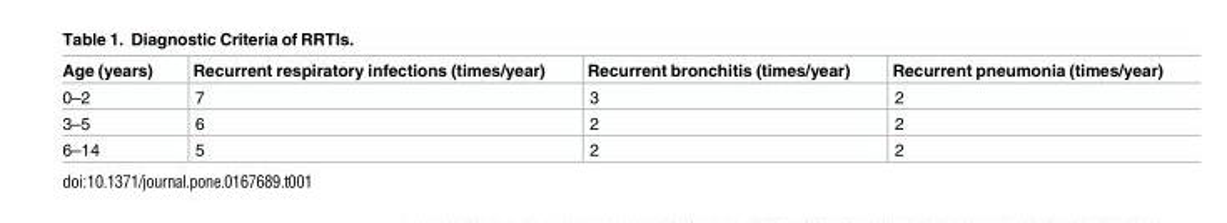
<table><thead><tr><td>Age (years)</td><td>Recurrent respiratory infections (times/year)</td><td>Recurrent bronchitis (times/year)</td><td>Recurrent pneumonia (times/year)</td></tr></thead><tbody><tr><td>0–2</td><td>7</td><td>3</td><td>2</td></tr><tr><td>3–5</td><td>6</td><td>2</td><td>2</td></tr><tr><td>6–14</td><td>5</td><td>2</td><td>2</td></tr></tbody></table>